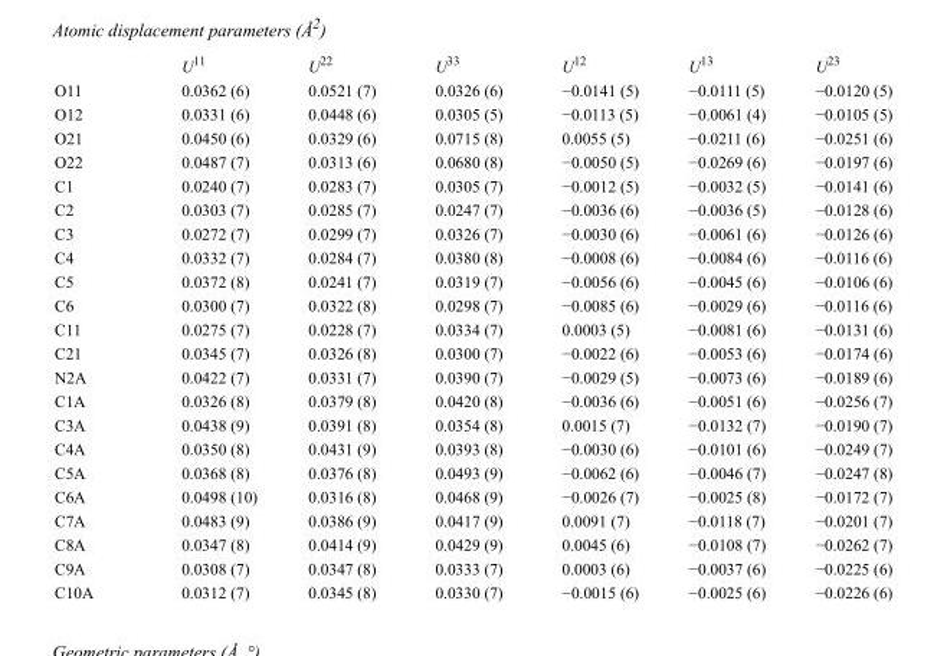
<table><thead><tr><td></td><td>U<sup>11</sup></td><td>U<sup>22</sup></td><td>U<sup>33</sup></td><td>U<sup>12</sup></td><td>U<sup>13</sup></td><td>U<sup>23</sup></td></tr></thead><tbody><tr><td>O11</td><td>0.0362 (6)</td><td>0.0521 (7)</td><td>0.0326 (6)</td><td>−0.0141 (5)</td><td>−0.0111 (5)</td><td>−0.0120 (5)</td></tr><tr><td>O12</td><td>0.0331 (6)</td><td>0.0448 (6)</td><td>0.0305 (5)</td><td>−0.0113 (5)</td><td>−0.0061 (4)</td><td>−0.0105 (5)</td></tr><tr><td>O21</td><td>0.0450 (6)</td><td>0.0329 (6)</td><td>0.0715 (8)</td><td>0.0055 (5)</td><td>−0.0211 (6)</td><td>−0.0251 (6)</td></tr><tr><td>O22</td><td>0.0487 (7)</td><td>0.0313 (6)</td><td>0.0680 (8)</td><td>−0.0050 (5)</td><td>−0.0269 (6)</td><td>−0.0197 (6)</td></tr><tr><td>C1</td><td>0.0240 (7)</td><td>0.0283 (7)</td><td>0.0305 (7)</td><td>−0.0012 (5)</td><td>−0.0032 (5)</td><td>−0.0141 (6)</td></tr><tr><td>C2</td><td>0.0303 (7)</td><td>0.0285 (7)</td><td>0.0247 (7)</td><td>−0.0036 (6)</td><td>−0.0036 (5)</td><td>−0.0128 (6)</td></tr><tr><td>C3</td><td>0.0272 (7)</td><td>0.0299 (7)</td><td>0.0326 (7)</td><td>−0.0030 (6)</td><td>−0.0061 (6)</td><td>−0.0126 (6)</td></tr><tr><td>C4</td><td>0.0332 (7)</td><td>0.0284 (7)</td><td>0.0380 (8)</td><td>−0.0008 (6)</td><td>−0.0084 (6)</td><td>−0.0116 (6)</td></tr><tr><td>C5</td><td>0.0372 (8)</td><td>0.0241 (7)</td><td>0.0319 (7)</td><td>−0.0056 (6)</td><td>−0.0045 (6)</td><td>−0.0106 (6)</td></tr><tr><td>C6</td><td>0.0300 (7)</td><td>0.0322 (8)</td><td>0.0298 (7)</td><td>−0.0085 (6)</td><td>−0.0029 (6)</td><td>−0.0116 (6)</td></tr><tr><td>C11</td><td>0.0275 (7)</td><td>0.0228 (7)</td><td>0.0334 (7)</td><td>0.0003 (5)</td><td>−0.0081 (6)</td><td>−0.0131 (6)</td></tr><tr><td>C21</td><td>0.0345 (7)</td><td>0.0326 (8)</td><td>0.0300 (7)</td><td>−0.0022 (6)</td><td>−0.0053 (6)</td><td>−0.0174 (6)</td></tr><tr><td>N2A</td><td>0.0422 (7)</td><td>0.0331 (7)</td><td>0.0390 (7)</td><td>−0.0029 (5)</td><td>−0.0073 (6)</td><td>−0.0189 (6)</td></tr><tr><td>C1A</td><td>0.0326 (8)</td><td>0.0379 (8)</td><td>0.0420 (8)</td><td>−0.0036 (6)</td><td>−0.0051 (6)</td><td>−0.0256 (7)</td></tr><tr><td>C3A</td><td>0.0438 (9)</td><td>0.0391 (8)</td><td>0.0354 (8)</td><td>0.0015 (7)</td><td>−0.0132 (7)</td><td>−0.0190 (7)</td></tr><tr><td>C4A</td><td>0.0350 (8)</td><td>0.0431 (9)</td><td>0.0393 (8)</td><td>−0.0030 (6)</td><td>−0.0101 (6)</td><td>−0.0249 (7)</td></tr><tr><td>C5A</td><td>0.0368 (8)</td><td>0.0376 (8)</td><td>0.0493 (9)</td><td>−0.0062 (6)</td><td>−0.0046 (7)</td><td>−0.0247 (8)</td></tr><tr><td>C6A</td><td>0.0498 (10)</td><td>0.0316 (8)</td><td>0.0468 (9)</td><td>−0.0026 (7)</td><td>−0.0025 (8)</td><td>−0.0172 (7)</td></tr><tr><td>C7A</td><td>0.0483 (9)</td><td>0.0386 (9)</td><td>0.0417 (9)</td><td>0.0091 (7)</td><td>−0.0118 (7)</td><td>−0.0201 (7)</td></tr><tr><td>C8A</td><td>0.0347 (8)</td><td>0.0414 (9)</td><td>0.0429 (9)</td><td>0.0045 (6)</td><td>−0.0108 (7)</td><td>−0.0262 (7)</td></tr><tr><td>C9A</td><td>0.0308 (7)</td><td>0.0347 (8)</td><td>0.0333 (7)</td><td>0.0003 (6)</td><td>−0.0037 (6)</td><td>−0.0225 (6)</td></tr><tr><td>C10A</td><td>0.0312 (7)</td><td>0.0345 (8)</td><td>0.0330 (7)</td><td>−0.0015 (6)</td><td>−0.0025 (6)</td><td>−0.0226 (6)</td></tr></tbody></table>